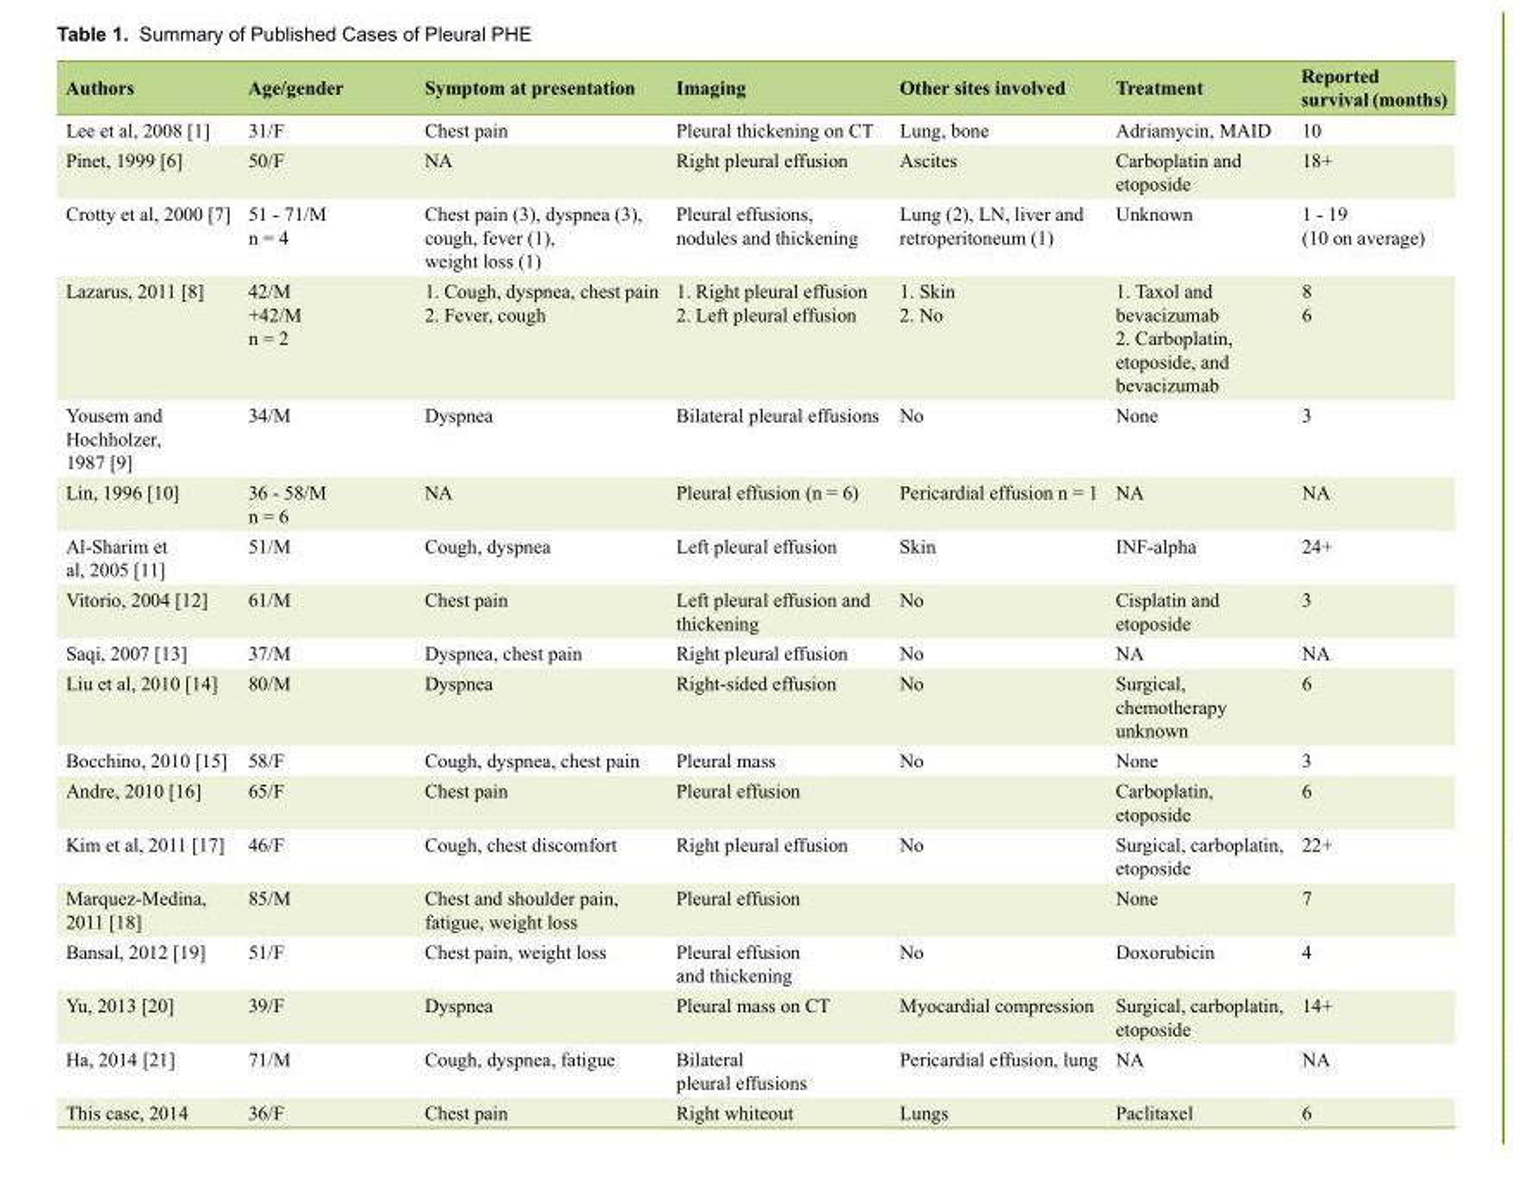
<table><thead><tr><td>Authors</td><td>Age/gender</td><td>Symptom at presentation</td><td>Imaging</td><td>Other sites involved</td><td>Treatment</td><td>Reported survival (months)</td></tr></thead><tbody><tr><td>Lee et al, 2008 [1]</td><td>31/F</td><td>Chest pain</td><td>Pleural thickening on CT</td><td>Lung, bone</td><td>Adriamycin, MAID</td><td>10</td></tr><tr><td>Pinet, 1999 [6]</td><td>50/F</td><td>NA</td><td>Right pleural effusion</td><td>Ascites</td><td>Carboplatin and etoposide</td><td>18+</td></tr><tr><td>Crotty et al, 2000 [7]</td><td>51 - 71/M n = 4</td><td>Chest pain (3), dyspnea (3), cough, fever (1), weight loss (1)</td><td>Pleural effusions, nodules and thickening</td><td>Lung (2), LN, liver and retroperitoneum (1)</td><td>Unknown</td><td>1 - 19 (10 on average)</td></tr><tr><td>Lazarus, 2011 [8]</td><td>42/M +42/M n = 2</td><td>1. Cough, dyspnea, chest pain 2. Fever, cough</td><td>1. Right pleural effusion 2. Left pleural effusion</td><td>1. Skin 2. No</td><td>1. Taxol and bevacizumab 2. Carboplatin, etoposide, and bevacizumab</td><td>8 6</td></tr><tr><td>Yousem and Hochholzer, 1987 [9]</td><td>34/M</td><td>Dyspnea</td><td>Bilateral pleural effusions</td><td>No</td><td>None</td><td>3</td></tr><tr><td>Lin, 1996 [10]</td><td>36 - 58/M n = 6</td><td>NA</td><td>Pleural effusion (n = 6)</td><td>Pericardial effusion n = 1</td><td>NA</td><td>NA</td></tr><tr><td>Al-Sharim et al, 2005 [11]</td><td>51/M</td><td>Cough, dyspnea</td><td>Left pleural effusion</td><td>Skin</td><td>INF-alpha</td><td>24+</td></tr><tr><td>Vitorio, 2004 [12]</td><td>61/M</td><td>Chest pain</td><td>Left pleural effusion and thickening</td><td>No</td><td>Cisplatin and etoposide</td><td>3</td></tr><tr><td>Saqi, 2007 [13]</td><td>37/M</td><td>Dyspnea, chest pain</td><td>Right pleural effusion</td><td>No</td><td>NA</td><td>NA</td></tr><tr><td>Liu et al, 2010 [14]</td><td>80/M</td><td>Dyspnea</td><td>Right-sided effusion</td><td>No</td><td>Surgical, chemotherapy unknown</td><td>6</td></tr><tr><td>Bocchino, 2010 [15]</td><td>58/F</td><td>Cough, dyspnea, chest pain</td><td>Pleural mass</td><td>No</td><td>None</td><td>3</td></tr><tr><td>Andre, 2010 [16]</td><td>65/F</td><td>Chest pain</td><td>Pleural effusion</td><td></td><td>Carboplatin, etoposide</td><td>6</td></tr><tr><td>Kim et al, 2011 [17]</td><td>46/F</td><td>Cough, chest discomfort</td><td>Right pleural effusion</td><td>No</td><td>Surgical, carboplatin, etoposide</td><td>22+</td></tr><tr><td>Marquez-Medina, 2011 [18]</td><td>85/M</td><td>Chest and shoulder pain, fatigue, weight loss</td><td>Pleural effusion</td><td></td><td>None</td><td>7</td></tr><tr><td>Bansal, 2012 [19]</td><td>51/F</td><td>Chest pain, weight loss</td><td>Pleural effusion and thickening</td><td>No</td><td>Doxorubicin</td><td>4</td></tr><tr><td>Yu, 2013 [20]</td><td>39/F</td><td>Dyspnea</td><td>Pleural mass on CT</td><td>Myocardial compression</td><td>Surgical, carboplatin, etoposide</td><td>14+</td></tr><tr><td>Ha, 2014 [21]</td><td>71/M</td><td>Cough, dyspnea, fatigue</td><td>Bilateral pleural effusions</td><td>Pericardial effusion, lung</td><td>NA</td><td>NA</td></tr><tr><td>This case, 2014</td><td>36/F</td><td>Chest pain</td><td>Right whiteout</td><td>Lungs</td><td>Paclitaxel</td><td>6</td></tr></tbody></table>